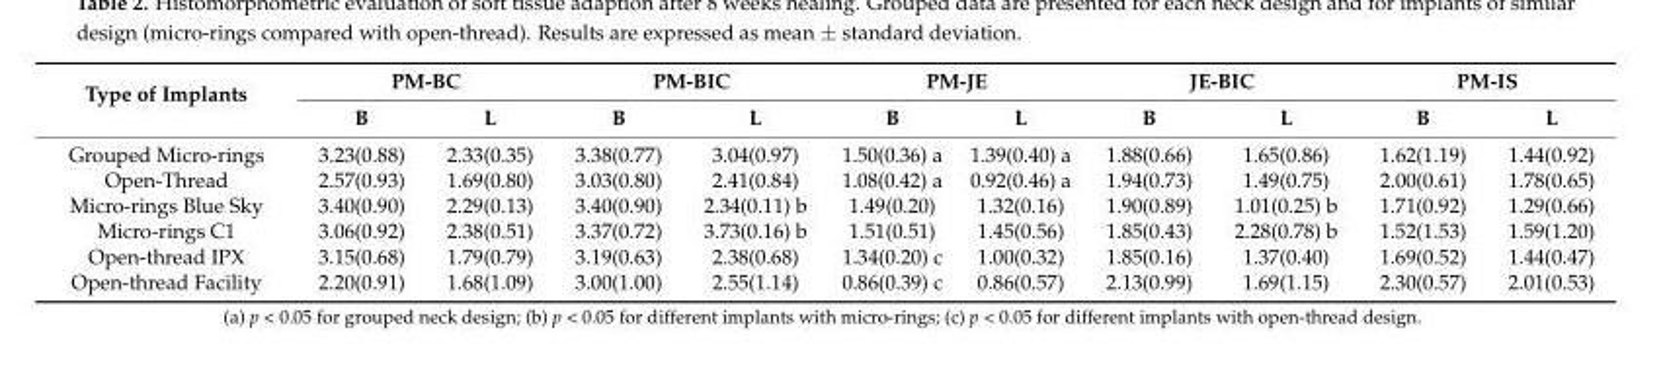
<table><thead><tr><td rowspan="2">Type of Implants</td><td colspan="2">PM-BC</td><td colspan="2">PM-BIC</td><td colspan="2">PM-JE</td><td colspan="2">JE-BIC</td><td colspan="2">PM-IS</td></tr><tr><td>B</td><td>L</td><td>B</td><td>L</td><td>B</td><td>L</td><td>B</td><td>L</td><td>B</td><td>L</td></tr></thead><tbody><tr><td>Grouped Micro-rings</td><td>3.23(0.88)</td><td>2.33(0.35)</td><td>3.38(0.77)</td><td>3.04(0.97)</td><td>1.50(0.36) a</td><td>1.39(0.40) a</td><td>1.88(0.66)</td><td>1.65(0.86)</td><td>1.62(1.19)</td><td>1.44(0.92)</td></tr><tr><td>Open-Thread</td><td>2.57(0.93)</td><td>1.69(0.80)</td><td>3.03(0.80)</td><td>2.41(0.84)</td><td>1.08(0.42) a</td><td>0.92(0.46) a</td><td>1.94(0.73)</td><td>1.49(0.75)</td><td>2.00(0.61)</td><td>1.78(0.65)</td></tr><tr><td>Micro-rings Blue Sky</td><td>3.40(0.90)</td><td>2.29(0.13)</td><td>3.40(0.90)</td><td>2.34(0.11) b</td><td>1.49(0.20)</td><td>1.32(0.16)</td><td>1.90(0.89)</td><td>1.01(0.25) b</td><td>1.71(0.92)</td><td>1.29(0.66)</td></tr><tr><td>Micro-rings C1</td><td>3.06(0.92)</td><td>2.38(0.51)</td><td>3.37(0.72)</td><td>3.73(0.16) b</td><td>1.51(0.51)</td><td>1.45(0.56)</td><td>1.85(0.43)</td><td>2.28(0.78) b</td><td>1.52(1.53)</td><td>1.59(1.20)</td></tr><tr><td>Open-thread IPX</td><td>3.15(0.68)</td><td>1.79(0.79)</td><td>3.19(0.63)</td><td>2.38(0.68)</td><td>1.34(0.20) c</td><td>1.00(0.32)</td><td>1.85(0.16)</td><td>1.37(0.40)</td><td>1.69(0.52)</td><td>1.44(0.47)</td></tr><tr><td>Open-thread Facility</td><td>2.20(0.91)</td><td>1.68(1.09)</td><td>3.00(1.00)</td><td>2.55(1.14)</td><td>0.86(0.39) c</td><td>0.86(0.57)</td><td>2.13(0.99)</td><td>1.69(1.15)</td><td>2.30(0.57)</td><td>2.01(0.53)</td></tr></tbody></table>